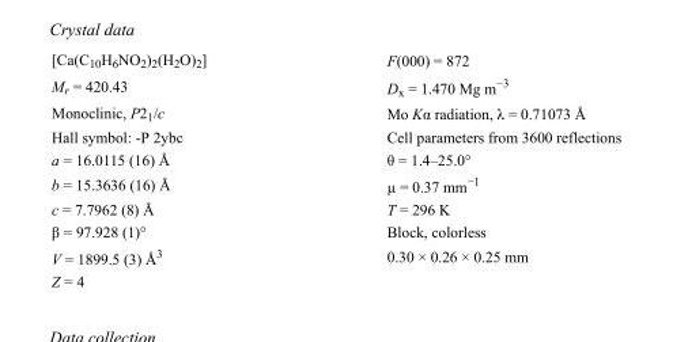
<table><tbody><tr><td>[Ca(C<sub>10</sub>H<sub>6</sub>NO<sub>2</sub>)<sub>2</sub>(H<sub>2</sub>O)<sub>2</sub>]</td><td>F(000) = 872</td></tr><tr><td>M<sub>r</sub> = 420.43</td><td>D<sub>x</sub> = 1.470 Mg m<sup>−3</sup></td></tr><tr><td>Monoclinic, P2<sub>1</sub>/c</td><td>Mo Kα radiation, λ = 0.71073 Å</td></tr><tr><td>Hall symbol: -P 2ybc</td><td>Cell parameters from 3600 reflections</td></tr><tr><td>a = 16.0115 (16) Å</td><td>θ = 1.4–25.0°</td></tr><tr><td>b = 15.3636 (16) Å</td><td>µ = 0.37 mm<sup>−1</sup></td></tr><tr><td>c = 7.7962 (8) Å</td><td>T = 296 K</td></tr><tr><td>β = 97.928 (1)°</td><td>Block, colorless</td></tr><tr><td>V = 1899.5 (3) Å<sup>3</sup></td><td>0.30 × 0.26 × 0.25 mm</td></tr><tr><td>Z = 4</td><td></td></tr></tbody></table>